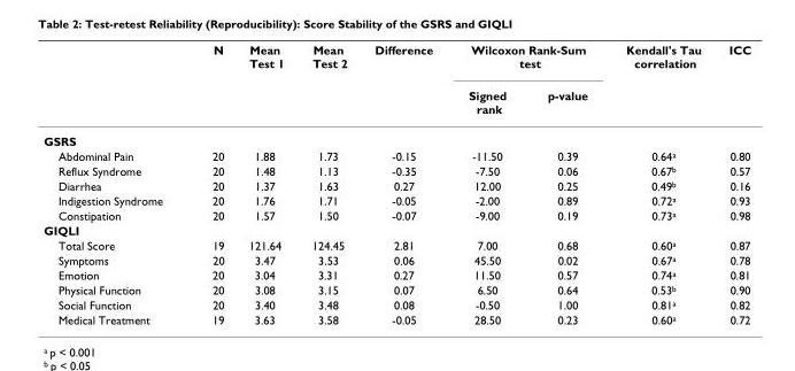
<table><thead><tr><td rowspan="2"></td><td rowspan="2">N</td><td rowspan="2">Mean Test 1</td><td rowspan="2">Mean Test 2</td><td rowspan="2">Difference</td><td colspan="2">Wilcoxon Rank-Sum test</td><td rowspan="2">Kendall&#x27;s Tau correlation</td><td rowspan="2">ICC</td></tr><tr><td>Signed rank</td><td>p-value</td></tr></thead><tbody><tr><td colspan="9">GSRS</td></tr><tr><td>Abdominal Pain</td><td>20</td><td>1.88</td><td>1.73</td><td>-0.15</td><td>-11.50</td><td>0.39</td><td>0.64<sup>a</sup></td><td>0.80</td></tr><tr><td>Reflux Syndrome</td><td>20</td><td>1.48</td><td>1.13</td><td>-0.35</td><td>-7.50</td><td>0.06</td><td>0.67<sup>b</sup></td><td>0.57</td></tr><tr><td>Diarrhea</td><td>20</td><td>1.37</td><td>1.63</td><td>0.27</td><td>12.00</td><td>0.25</td><td>0.49<sup>b</sup></td><td>0.16</td></tr><tr><td>Indigestion Syndrome</td><td>20</td><td>1.76</td><td>1.71</td><td>-0.05</td><td>-2.00</td><td>0.89</td><td>0.72<sup>a</sup></td><td>0.93</td></tr><tr><td>Constipation</td><td>20</td><td>1.57</td><td>1.50</td><td>-0.07</td><td>-9.00</td><td>0.19</td><td>0.73<sup>a</sup></td><td>0.98</td></tr><tr><td colspan="9">GIQLI</td></tr><tr><td>Total Score</td><td>19</td><td>121.64</td><td>124.45</td><td>2.81</td><td>7.00</td><td>0.68</td><td>0.60<sup>a</sup></td><td>0.87</td></tr><tr><td>Symptoms</td><td>20</td><td>3.47</td><td>3.53</td><td>0.06</td><td>45.50</td><td>0.02</td><td>0.67<sup>a</sup></td><td>0.78</td></tr><tr><td>Emotion</td><td>20</td><td>3.04</td><td>3.31</td><td>0.27</td><td>11.50</td><td>0.57</td><td>0.74<sup>a</sup></td><td>0.81</td></tr><tr><td>Physical Function</td><td>20</td><td>3.08</td><td>3.15</td><td>0.07</td><td>6.50</td><td>0.64</td><td>0.53<sup>b</sup></td><td>0.90</td></tr><tr><td>Social Function</td><td>20</td><td>3.40</td><td>3.48</td><td>0.08</td><td>-0.50</td><td>1.00</td><td>0.81<sup>a</sup></td><td>0.82</td></tr><tr><td>Medical Treatment</td><td>19</td><td>3.63</td><td>3.58</td><td>-0.05</td><td>28.50</td><td>0.23</td><td>0.60<sup>a</sup></td><td>0.72</td></tr></tbody></table>